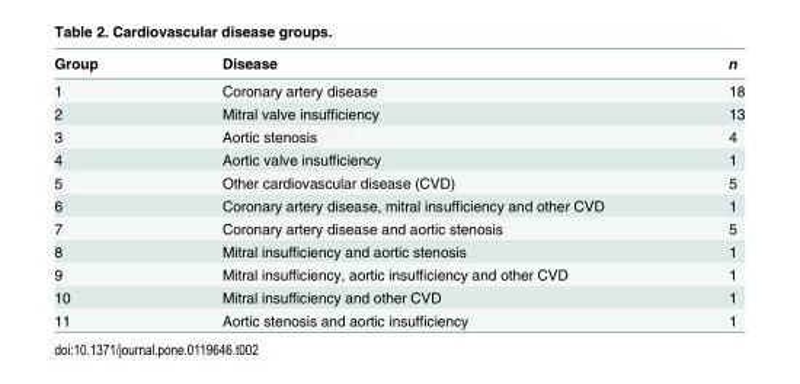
<table><thead><tr><td>Group</td><td>Disease</td><td>n</td></tr></thead><tbody><tr><td>1</td><td>Coronary artery disease</td><td>18</td></tr><tr><td>2</td><td>Mitral valve insufficiency</td><td>13</td></tr><tr><td>3</td><td>Aortic stenosis</td><td>4</td></tr><tr><td>4</td><td>Aortic valve insufficiency</td><td>1</td></tr><tr><td>5</td><td>Other cardiovascular disease (CVD)</td><td>5</td></tr><tr><td>6</td><td>Coronary artery disease, mitral insufficiency and other CVD</td><td>1</td></tr><tr><td>7</td><td>Coronary artery disease and aortic stenosis</td><td>5</td></tr><tr><td>8</td><td>Mitral insufficiency and aortic stenosis</td><td>1</td></tr><tr><td>9</td><td>Mitral insufficiency, aortic insufficiency and other CVD</td><td>1</td></tr><tr><td>10</td><td>Mitral insufficiency and other CVD</td><td>1</td></tr><tr><td>11</td><td>Aortic stenosis and aortic insufficiency</td><td>1</td></tr></tbody></table>